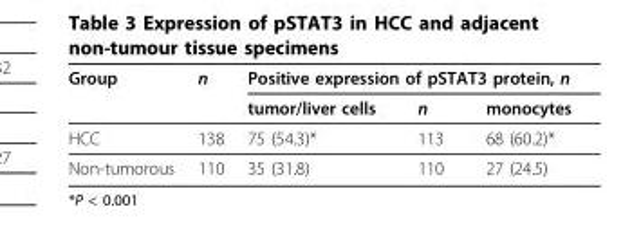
<table><thead><tr><td rowspan="2">Group</td><td rowspan="2">n</td><td colspan="3">Positive expression of pSTAT3 protein, n</td></tr><tr><td>tumor/liver cells</td><td>n</td><td>monocytes</td></tr></thead><tbody><tr><td>HCC</td><td>138</td><td>75 (54.3)*</td><td>113</td><td>68 (60.2)*</td></tr><tr><td>Non-tumorous</td><td>110</td><td>35 (31.8)</td><td>110</td><td>27 (24.5)</td></tr></tbody></table>